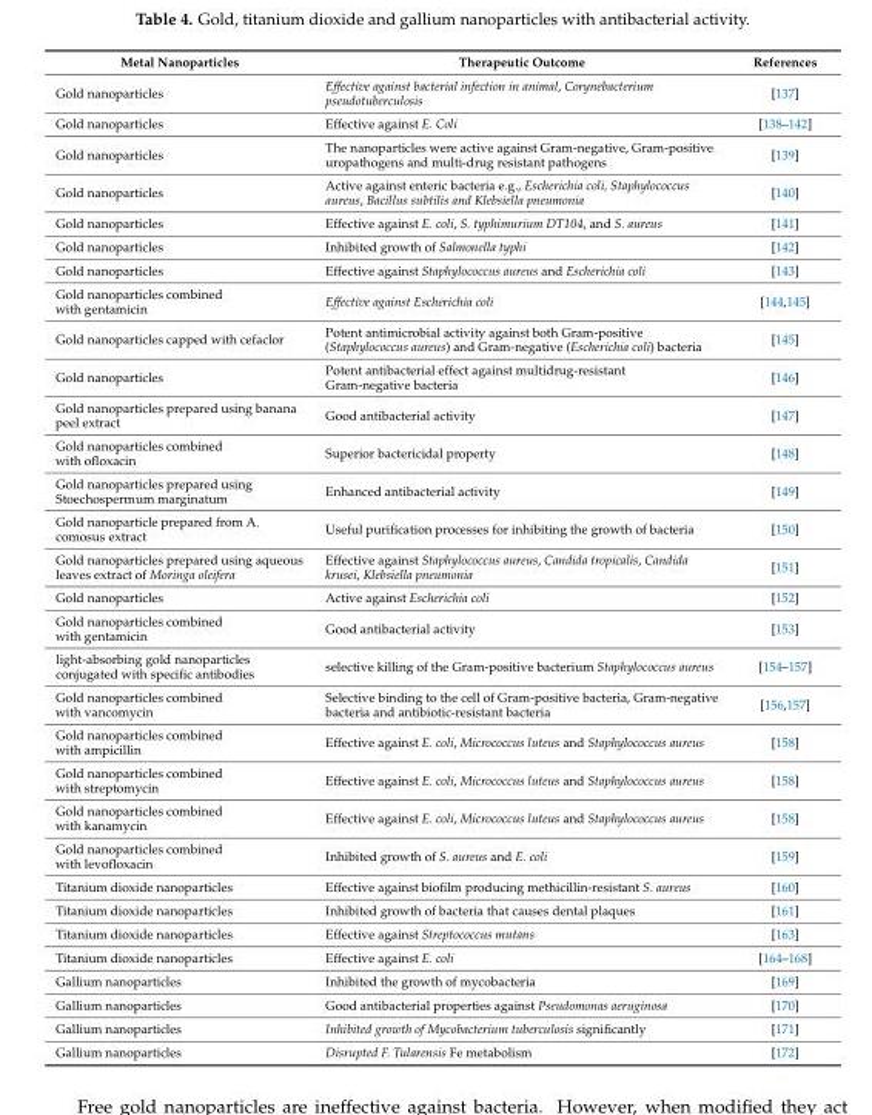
<table><thead><tr><td>Metal Nanoparticles</td><td>Therapeutic Outcome</td><td>References</td></tr></thead><tbody><tr><td>Gold nanoparticles</td><td>Effective against bacterial infection in animal, Corynebacterium pseudotuberculosis</td><td>[137]</td></tr><tr><td>Gold nanoparticles</td><td>Effective against E. Coli</td><td>[138–142]</td></tr><tr><td>Gold nanoparticles</td><td>The nanoparticles were active against Gram-negative, Gram-positive uropathogens and multi-drug resistant pathogens</td><td>[139]</td></tr><tr><td>Gold nanoparticles</td><td>Active against enteric bacteria e.g., Escherichia coli, Staphylococcus aureus, Bacillus subtilis and Klebsiella pneumonia</td><td>[140]</td></tr><tr><td>Gold nanoparticles</td><td>Effective against E. coli, S. typhimurium DT104, and S. aureus</td><td>[141]</td></tr><tr><td>Gold nanoparticles</td><td>Inhibited growth of Salmonella typhi</td><td>[142]</td></tr><tr><td>Gold nanoparticles</td><td>Effective against Staphylococcus aureus and Escherichia coli</td><td>[143]</td></tr><tr><td>Gold nanoparticles combined with gentamicin</td><td>Effective against Escherichia coli</td><td>[144,145]</td></tr><tr><td>Gold nanoparticles capped with cefaclor</td><td>Potent antimicrobial activity against both Gram-positive (Staphylococcus aureus) and Gram-negative (Escherichia coli) bacteria</td><td>[145]</td></tr><tr><td>Gold nanoparticles</td><td>Potent antibacterial effect against multidrug-resistant Gram-negative bacteria</td><td>[146]</td></tr><tr><td>Gold nanoparticles prepared using banana peel extract</td><td>Good antibacterial activity</td><td>[147]</td></tr><tr><td>Gold nanoparticles combined with ofloxacin</td><td>Superior bactericidal property</td><td>[148]</td></tr><tr><td>Gold nanoparticles prepared using Stoechospermum marginatum</td><td>Enhanced antibacterial activity</td><td>[149]</td></tr><tr><td>Gold nanoparticle prepared from A. comosus extract</td><td>Useful purification processes for inhibiting the growth of bacteria</td><td>[150]</td></tr><tr><td>Gold nanoparticles prepared using aqueous leaves extract of Moringa oleifera</td><td>Effective against Staphylococcus aureus, Candida tropicalis, Candida krusei, Klebsiella pneumonia</td><td>[151]</td></tr><tr><td>Gold nanoparticles</td><td>Active against Escherichia coli</td><td>[152]</td></tr><tr><td>Gold nanoparticles combined with gentamicin</td><td>Good antibacterial activity</td><td>[153]</td></tr><tr><td>light-absorbing gold nanoparticles conjugated with specific antibodies</td><td>selective killing of the Gram-positive bacterium Staphylococcus aureus</td><td>[154–157]</td></tr><tr><td>Gold nanoparticles combined with vancomycin</td><td>Selective binding to the cell of Gram-positive bacteria, Gram-negative bacteria and antibiotic-resistant bacteria</td><td>[156,157]</td></tr><tr><td>Gold nanoparticles combined with ampicillin</td><td>Effective against E. coli, Micrococcus luteus and Staphylococcus aureus</td><td>[158]</td></tr><tr><td>Gold nanoparticles combined with streptomycin</td><td>Effective against E. coli, Micrococcus luteus and Staphylococcus aureus</td><td>[158]</td></tr><tr><td>Gold nanoparticles combined with kanamycin</td><td>Effective against E. coli, Micrococcus luteus and Staphylococcus aureus</td><td>[158]</td></tr><tr><td>Gold nanoparticles combined with levofloxacin</td><td>Inhibited growth of S. aureus and E. coli</td><td>[159]</td></tr><tr><td>Titanium dioxide nanoparticles</td><td>Effective against biofilm producing methicillin-resistant S. aureus</td><td>[160]</td></tr><tr><td>Titanium dioxide nanoparticles</td><td>Inhibited growth of bacteria that causes dental plaques</td><td>[161]</td></tr><tr><td>Titanium dioxide nanoparticles</td><td>Effective against Streptococcus mutans</td><td>[163]</td></tr><tr><td>Titanium dioxide nanoparticles</td><td>Effective against E. coli</td><td>[164–168]</td></tr><tr><td>Gallium nanoparticles</td><td>Inhibited the growth of mycobacteria</td><td>[169]</td></tr><tr><td>Gallium nanoparticles</td><td>Good antibacterial properties against Pseudomonas aeruginosa</td><td>[170]</td></tr><tr><td>Gallium nanoparticles</td><td>Inhibited growth of Mycobacterium tuberculosis significantly</td><td>[171]</td></tr><tr><td>Gallium nanoparticles</td><td>Disrupted F. Tularensis Fe metabolism</td><td>[172]</td></tr></tbody></table>